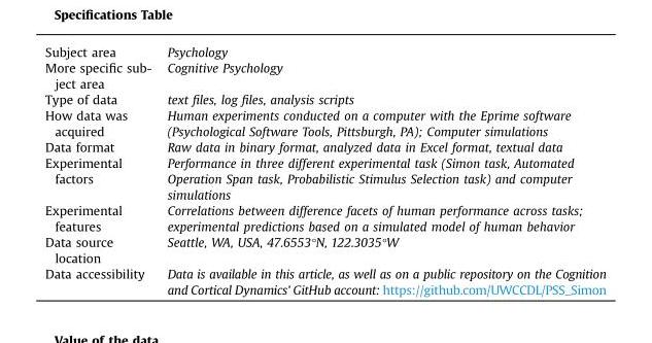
<table><tbody><tr><td>Subject area</td><td>Psychology</td></tr><tr><td>More specific sub- ject area</td><td>Cognitive Psychology</td></tr><tr><td>Type of data</td><td>text files, log files, analysis scripts</td></tr><tr><td>How data was acquired</td><td>Human experiments conducted on a computer with the Eprime software (Psychological Software Tools, Pittsburgh, PA); Computer simulations</td></tr><tr><td>Data format</td><td>Raw data in binary format, analyzed data in Excel format, textual data</td></tr><tr><td>Experimental factors</td><td>Performance in three different experimental task (Simon task, Automated Operation Span task, Probabilistic Stimulus Selection task) and computer simulations</td></tr><tr><td>Experimental features</td><td>Correlations between difference facets of human performance across tasks; experimental predictions based on a simulated model of human behavior</td></tr><tr><td>Data source location</td><td>Seattle, WA, USA, 47.6553°N, 122.3035°W</td></tr><tr><td>Data accessibility</td><td>Data is available in this article, as well as on a public repository on the Cognition and Cortical Dynamics’ GitHub account: https://github.com/UWCCDL/PSS_Simon</td></tr></tbody></table>